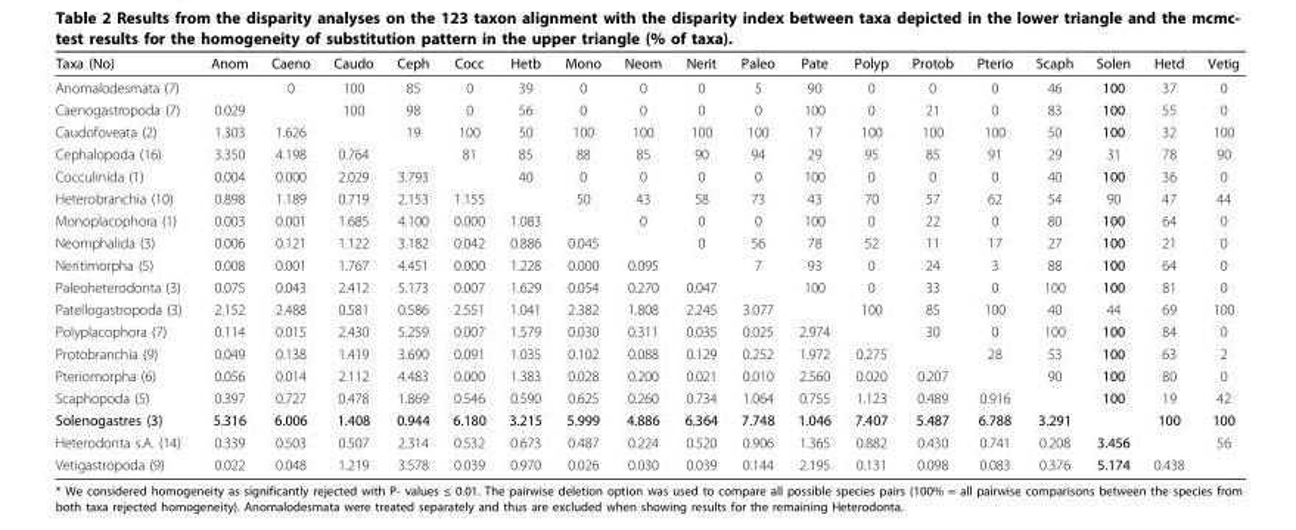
<table><thead><tr><td>Taxa (No)</td><td>Anom</td><td>Caeno</td><td>Caudo</td><td>Ceph</td><td>Cocc</td><td>Hetb</td><td>Mono</td><td>Neom</td><td>Nerit</td><td>Paleo</td><td>Pate</td><td>Polyp</td><td>Protob</td><td>Pterio</td><td>Scaph</td><td>Solen</td><td>Hetd</td><td>Vetig</td></tr></thead><tbody><tr><td>Anomalodesmata (7)</td><td></td><td>0</td><td>100</td><td>85</td><td>0</td><td>39</td><td>0</td><td>0</td><td>0</td><td>5</td><td>90</td><td>0</td><td>0</td><td>0</td><td>46</td><td>100</td><td>37</td><td>0</td></tr><tr><td>Caenogastropoda (7)</td><td>0.029</td><td></td><td>100</td><td>98</td><td>0</td><td>56</td><td>0</td><td>0</td><td>0</td><td>0</td><td>100</td><td>0</td><td>21</td><td>0</td><td>83</td><td>100</td><td>55</td><td>0</td></tr><tr><td>Caudofoveata (2)</td><td>1.303</td><td>1.626</td><td></td><td>19</td><td>100</td><td>50</td><td>100</td><td>100</td><td>100</td><td>100</td><td>17</td><td>100</td><td>100</td><td>100</td><td>50</td><td>100</td><td>32</td><td>100</td></tr><tr><td>Cephalopoda (16)</td><td>3.350</td><td>4.198</td><td>0.764</td><td></td><td>81</td><td>85</td><td>88</td><td>85</td><td>90</td><td>94</td><td>29</td><td>95</td><td>85</td><td>91</td><td>29</td><td>31</td><td>78</td><td>90</td></tr><tr><td>Cocculinida (1)</td><td>0.004</td><td>0.000</td><td>2.029</td><td>3.793</td><td></td><td>40</td><td>0</td><td>0</td><td>0</td><td>0</td><td>100</td><td>0</td><td>0</td><td>0</td><td>40</td><td>100</td><td>36</td><td>0</td></tr><tr><td>Heterobranchia (10)</td><td>0.898</td><td>1.189</td><td>0.719</td><td>2.153</td><td>1.155</td><td></td><td>50</td><td>43</td><td>58</td><td>73</td><td>43</td><td>70</td><td>57</td><td>62</td><td>54</td><td>90</td><td>47</td><td>44</td></tr><tr><td>Monoplacophora (1)</td><td>0.003</td><td>0.001</td><td>1.685</td><td>4.100</td><td>0.000</td><td>1.083</td><td></td><td>0</td><td>0</td><td>0</td><td>100</td><td>0</td><td>22</td><td>0</td><td>80</td><td>100</td><td>64</td><td>0</td></tr><tr><td>Neomphalida (3)</td><td>0.006</td><td>0.121</td><td>1.122</td><td>3.182</td><td>0.042</td><td>0.886</td><td>0.045</td><td></td><td>0</td><td>56</td><td>78</td><td>52</td><td>11</td><td>17</td><td>27</td><td>100</td><td>21</td><td>0</td></tr><tr><td>Neritimorpha (5)</td><td>0.008</td><td>0.001</td><td>1.767</td><td>4.451</td><td>0.000</td><td>1.228</td><td>0.000</td><td>0.095</td><td></td><td>7</td><td>93</td><td>0</td><td>24</td><td>3</td><td>88</td><td>100</td><td>64</td><td>0</td></tr><tr><td>Paleoheterodonta (3)</td><td>0.075</td><td>0.043</td><td>2.412</td><td>5.173</td><td>0.007</td><td>1.629</td><td>0.054</td><td>0.270</td><td>0.047</td><td></td><td>100</td><td>0</td><td>33</td><td>0</td><td>100</td><td>100</td><td>81</td><td>0</td></tr><tr><td>Patellogastropoda (3)</td><td>2.152</td><td>2.488</td><td>0.581</td><td>0.586</td><td>2.551</td><td>1.041</td><td>2.382</td><td>1.808</td><td>2.245</td><td>3.077</td><td></td><td>100</td><td>85</td><td>100</td><td>40</td><td>44</td><td>69</td><td>100</td></tr><tr><td>Polyplacophora (7)</td><td>0.114</td><td>0.015</td><td>2.430</td><td>5.259</td><td>0.007</td><td>1.579</td><td>0.030</td><td>0.311</td><td>0.035</td><td>0.025</td><td>2.974</td><td></td><td>30</td><td>0</td><td>100</td><td>100</td><td>84</td><td>0</td></tr><tr><td>Protobranchia (9)</td><td>0.049</td><td>0.138</td><td>1.419</td><td>3.690</td><td>0.091</td><td>1.035</td><td>0.102</td><td>0.088</td><td>0.129</td><td>0.252</td><td>1.972</td><td>0.275</td><td></td><td>28</td><td>53</td><td>100</td><td>63</td><td>2</td></tr><tr><td>Pteriomorpha (6)</td><td>0.056</td><td>0.014</td><td>2.112</td><td>4.483</td><td>0.000</td><td>1.383</td><td>0.028</td><td>0.200</td><td>0.021</td><td>0.010</td><td>2.560</td><td>0.020</td><td>0.207</td><td></td><td>90</td><td>100</td><td>80</td><td>0</td></tr><tr><td>Scaphopoda (5)</td><td>0.397</td><td>0.727</td><td>0.478</td><td>1.869</td><td>0.546</td><td>0.590</td><td>0.625</td><td>0.260</td><td>0.734</td><td>1.064</td><td>0.755</td><td>1.123</td><td>0.489</td><td>0.916</td><td></td><td>100</td><td>19</td><td>42</td></tr><tr><td>Solenogastres (3)</td><td>5.316</td><td>6.006</td><td>1.408</td><td>0.944</td><td>6.180</td><td>3.215</td><td>5.999</td><td>4.886</td><td>6.364</td><td>7.748</td><td>1.046</td><td>7.407</td><td>5.487</td><td>6.788</td><td>3.291</td><td></td><td>100</td><td>100</td></tr><tr><td>Heterodonta s.A. (14)</td><td>0.339</td><td>0.503</td><td>0.507</td><td>2.314</td><td>0.532</td><td>0.673</td><td>0.487</td><td>0.224</td><td>0.520</td><td>0.906</td><td>1.365</td><td>0.882</td><td>0.430</td><td>0.741</td><td>0.208</td><td>3.456</td><td></td><td>56</td></tr><tr><td>Vetigastropoda (9)</td><td>0.022</td><td>0.048</td><td>1.219</td><td>3.578</td><td>0.039</td><td>0.970</td><td>0.026</td><td>0.030</td><td>0.039</td><td>0.144</td><td>2.195</td><td>0.131</td><td>0.098</td><td>0.083</td><td>0.376</td><td>5.174</td><td>0.438</td><td></td></tr></tbody></table>